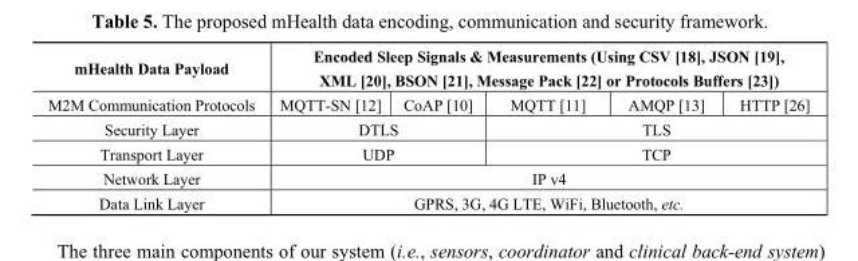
<table><thead><tr><td rowspan="2">mHealth Data Payload M2M Communication Protocols</td><td colspan="5">Encoded Sleep Signals &amp; Measurements (Using CSV [18], JSON [19], XML [20], BSON [21], Message Pack [22] or Protocols Buffers [23])</td></tr><tr><td>MQTT-SN [12]</td><td>CoAP [10]</td><td>MQTT [11]</td><td>AMQP [13]</td><td>HTTP [26]</td></tr></thead><tbody><tr><td>Security Layer</td><td colspan="2">DTLS</td><td colspan="3">TLS</td></tr><tr><td>Transport Layer</td><td colspan="2">UDP</td><td colspan="3">TCP</td></tr><tr><td>Network Layer</td><td colspan="5">IP v4</td></tr><tr><td>Data Link Layer</td><td colspan="5">GPRS, 3G, 4G LTE, WiFi, Bluetooth, etc.</td></tr></tbody></table>